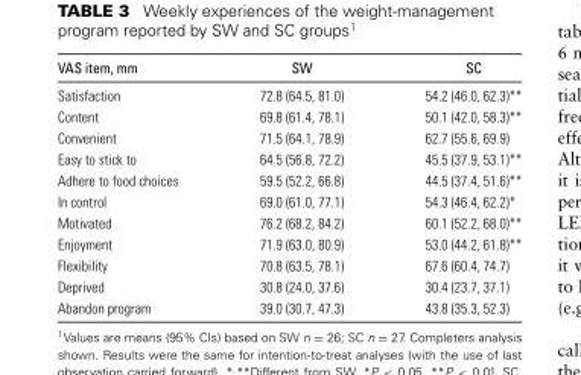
<table><thead><tr><td>VAS item, mm</td><td>SW</td><td>SC</td></tr></thead><tbody><tr><td>Satisfaction</td><td>72.8 (64.5, 81.0)</td><td>54.2 (46.0, 62.3)**</td></tr><tr><td>Content</td><td>69.8 (61.4, 78.1)</td><td>50.1 (42.0, 58.3)**</td></tr><tr><td>Convenient</td><td>71.5 (64.1, 78.9)</td><td>62.7 (55.6, 69.9)</td></tr><tr><td>Easy to stick to</td><td>64.5 (56.8, 72.2)</td><td>45.5 (37.9, 53.1)**</td></tr><tr><td>Adhere to food choices</td><td>59.5 (52.2, 66.8)</td><td>44.5 (37.4, 51.6)**</td></tr><tr><td>In control</td><td>69.0 (61.0, 77.1)</td><td>54.3 (46.4, 62.2)*</td></tr><tr><td>Motivated</td><td>76.2 (68.2, 84.2)</td><td>60.1 (52.2, 68.0)**</td></tr><tr><td>Enjoyment</td><td>71.9 (63.0, 80.9)</td><td>53.0 (44.2, 61.8)**</td></tr><tr><td>Flexibility</td><td>70.8 (63.5, 78.1)</td><td>67.6 (60.4, 74.7)</td></tr><tr><td>Deprived</td><td>30.8 (24.0, 37.6)</td><td>30.4 (23.7, 37.1)</td></tr><tr><td>Abandon program</td><td>39.0 (30.7, 47.3)</td><td>43.8 (35.3, 52.3)</td></tr></tbody></table>